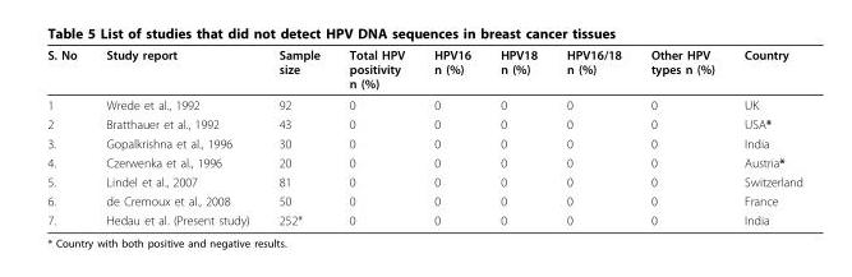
<table><thead><tr><td>S. No</td><td>Study report</td><td>Sample size</td><td>Total HPV positivity n (%)</td><td>HPV16 n (%)</td><td>HPV18 n (%)</td><td>HPV16/18 n (%)</td><td>Other HPV types n (%)</td><td>Country</td></tr></thead><tbody><tr><td>1</td><td>Wrede et al., 1992</td><td>92</td><td>0</td><td>0</td><td>0</td><td>0</td><td>0</td><td>UK</td></tr><tr><td>2</td><td>Bratthauer et al., 1992</td><td>43</td><td>0</td><td>0</td><td>0</td><td>0</td><td>0</td><td>USA*</td></tr><tr><td>3.</td><td>Gopalkrishna et al., 1996</td><td>30</td><td>0</td><td>0</td><td>0</td><td>0</td><td>0</td><td>India</td></tr><tr><td>4.</td><td>Czerwenka et al., 1996</td><td>20</td><td>0</td><td>0</td><td>0</td><td>0</td><td>0</td><td>Austria*</td></tr><tr><td>5.</td><td>Lindel et al., 2007</td><td>81</td><td>0</td><td>0</td><td>0</td><td>0</td><td>0</td><td>Switzerland</td></tr><tr><td>6.</td><td>de Cremoux et al., 2008</td><td>50</td><td>0</td><td>0</td><td>0</td><td>0</td><td>0</td><td>France</td></tr><tr><td>7.</td><td>Hedau et al. (Present study)</td><td>252*</td><td>0</td><td>0</td><td>0</td><td>0</td><td>0</td><td>India</td></tr></tbody></table>